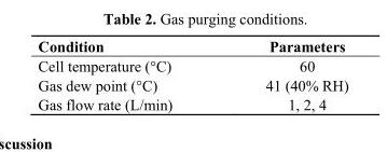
<table><thead><tr><td>Condition</td><td>Parameters</td></tr></thead><tbody><tr><td>Cell temperature (°C)</td><td>60</td></tr><tr><td>Gas dew point (°C)</td><td>41 (40% RH)</td></tr><tr><td>Gas flow rate (L/min)</td><td>1, 2, 4</td></tr></tbody></table>